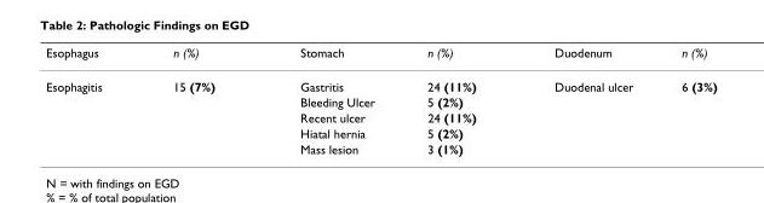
<table><thead><tr><td>Esophagus</td><td>n (%)</td><td>Stomach</td><td>n (%)</td><td>Duodenum</td><td>n (%)</td></tr></thead><tbody><tr><td rowspan="5">Esophagitis</td><td>15 (7%)</td><td>Gastritis</td><td>24 (11%)</td><td>Duodenal ulcer</td><td>6 (3%)</td></tr><tr><td></td><td>Bleeding Ulcer</td><td>5 (2%)</td><td></td><td></td></tr><tr><td></td><td>Recent ulcer</td><td>24 (11%)</td><td></td><td></td></tr><tr><td></td><td>Hiatal hernia</td><td>5 (2%)</td><td></td><td></td></tr><tr><td></td><td>Mass lesion</td><td>3 (1%)</td><td></td><td></td></tr></tbody></table>